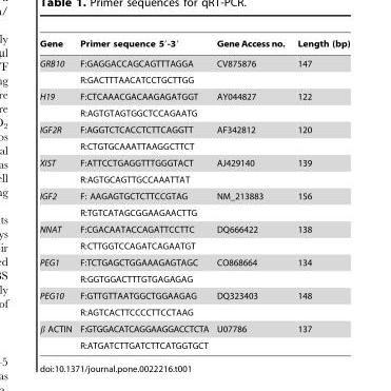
<table><thead><tr><td>Gene</td><td>Primer sequence 5′-3′</td><td>Gene Access no.</td><td>Length (bp)</td></tr></thead><tbody><tr><td rowspan="2">GRB10</td><td>F:GAGGACCAGCAGTTTAGGA</td><td>CV875876</td><td>147</td></tr><tr><td>R:GACTTTAACATCCTGCTTGG</td><td></td><td></td></tr><tr><td rowspan="2">H19</td><td>F:CTCAAACGACAAGAGATGGT</td><td>AY044827</td><td>122</td></tr><tr><td>R:AGTGTAGTGGCTCCAGAATG</td><td></td><td></td></tr><tr><td rowspan="2">IGF2R</td><td>F:AGGTCTCACCTCTTCAGGTT</td><td>AF342812</td><td>120</td></tr><tr><td>R:CTGTGCAAATTAAGGCTTCT</td><td></td><td></td></tr><tr><td rowspan="2">XIST</td><td>F:ATTCCTGAGGTTTGGGTACT</td><td>AJ429140</td><td>139</td></tr><tr><td>R:AGTGCAGTTGCCAAATTAT</td><td></td><td></td></tr><tr><td rowspan="2">IGF2</td><td>F: AAGAGTGCTCTTCCGTAG</td><td>NM_213883</td><td>156</td></tr><tr><td>R:TGTCATAGCGGAAGAACTTG</td><td></td><td></td></tr><tr><td rowspan="2">NNAT</td><td>F:CGACAATACCAGATTCCTTC</td><td>DQ666422</td><td>138</td></tr><tr><td>R:CTTGGTCCAGATCAGAATGT</td><td></td><td></td></tr><tr><td rowspan="2">PEG1</td><td>F:TCTGAGCTGGAAAGAGTAGC</td><td>CO868664</td><td>134</td></tr><tr><td>R:GGTGGACTTTGTGAGAGAG</td><td></td><td></td></tr><tr><td rowspan="2">PEG10</td><td>F:GTTGTTAATGGCTGGAAGAG</td><td>DQ323403</td><td>148</td></tr><tr><td>R:AGTCACTTCCCCTTCCTAAG</td><td></td><td></td></tr><tr><td rowspan="2">β ACTIN</td><td>F:GTGGACATCAGGAAGGACCTCTA</td><td>U07786</td><td>137</td></tr><tr><td>R:ATGATCTTGATCTTCATGGTGCT</td><td></td><td></td></tr></tbody></table>